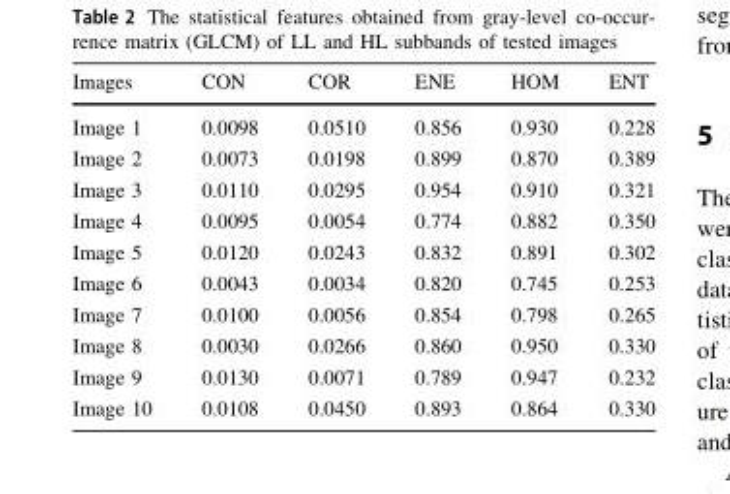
<table><thead><tr><td>Images</td><td>CON</td><td>COR</td><td>ENE</td><td>HOM</td><td>ENT</td></tr></thead><tbody><tr><td>Image 1</td><td>0.0098</td><td>0.0510</td><td>0.856</td><td>0.930</td><td>0.228</td></tr><tr><td>Image 2</td><td>0.0073</td><td>0.0198</td><td>0.899</td><td>0.870</td><td>0.389</td></tr><tr><td>Image 3</td><td>0.0110</td><td>0.0295</td><td>0.954</td><td>0.910</td><td>0.321</td></tr><tr><td>Image 4</td><td>0.0095</td><td>0.0054</td><td>0.774</td><td>0.882</td><td>0.350</td></tr><tr><td>Image 5</td><td>0.0120</td><td>0.0243</td><td>0.832</td><td>0.891</td><td>0.302</td></tr><tr><td>Image 6</td><td>0.0043</td><td>0.0034</td><td>0.820</td><td>0.745</td><td>0.253</td></tr><tr><td>Image 7</td><td>0.0100</td><td>0.0056</td><td>0.854</td><td>0.798</td><td>0.265</td></tr><tr><td>Image 8</td><td>0.0030</td><td>0.0266</td><td>0.860</td><td>0.950</td><td>0.330</td></tr><tr><td>Image 9</td><td>0.0130</td><td>0.0071</td><td>0.789</td><td>0.947</td><td>0.232</td></tr><tr><td>Image 10</td><td>0.0108</td><td>0.0450</td><td>0.893</td><td>0.864</td><td>0.330</td></tr></tbody></table>